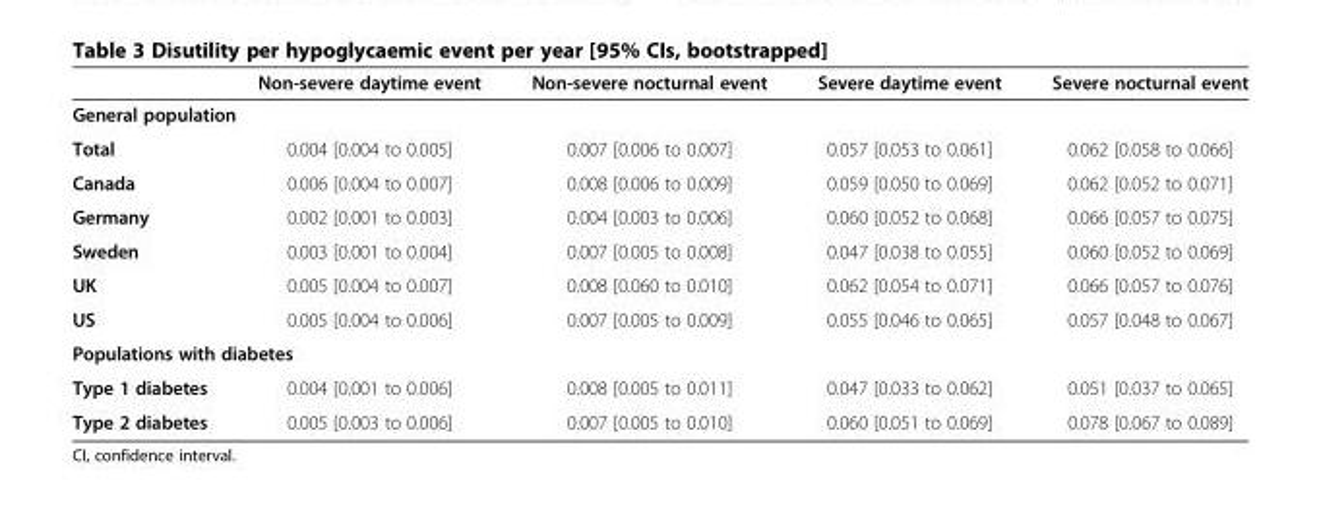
<table><thead><tr><td></td><td>Non-severe daytime event</td><td>Non-severe nocturnal event</td><td>Severe daytime event</td><td>Severe nocturnal event</td></tr></thead><tbody><tr><td colspan="5">General population</td></tr><tr><td>Total</td><td>0.004 [0.004 to 0.005]</td><td>0.007 [0.006 to 0.007]</td><td>0.057 [0.053 to 0.061]</td><td>0.062 [0.058 to 0.066]</td></tr><tr><td>Canada</td><td>0.006 [0.004 to 0.007]</td><td>0.008 [0.006 to 0.009]</td><td>0.059 [0.050 to 0.069]</td><td>0.062 [0.052 to 0.071]</td></tr><tr><td>Germany</td><td>0.002 [0.001 to 0.003]</td><td>0.004 [0.003 to 0.006]</td><td>0.060 [0.052 to 0.068]</td><td>0.066 [0.057 to 0.075]</td></tr><tr><td>Sweden</td><td>0.003 [0.001 to 0.004]</td><td>0.007 [0.005 to 0.008]</td><td>0.047 [0.038 to 0.055]</td><td>0.060 [0.052 to 0.069]</td></tr><tr><td>UK</td><td>0.005 [0.004 to 0.007]</td><td>0.008 [0.060 to 0.010]</td><td>0.062 [0.054 to 0.071]</td><td>0.066 [0.057 to 0.076]</td></tr><tr><td>US</td><td>0.005 [0.004 to 0.006]</td><td>0.007 [0.005 to 0.009]</td><td>0.055 [0.046 to 0.065]</td><td>0.057 [0.048 to 0.067]</td></tr><tr><td colspan="5">Populations with diabetes</td></tr><tr><td>Type 1 diabetes</td><td>0.004 [0.001 to 0.006]</td><td>0.008 [0.005 to 0.011]</td><td>0.047 [0.033 to 0.062]</td><td>0.051 [0.037 to 0.065]</td></tr><tr><td>Type 2 diabetes</td><td>0.005 [0.003 to 0.006]</td><td>0.007 [0.005 to 0.010]</td><td>0.060 [0.051 to 0.069]</td><td>0.078 [0.067 to 0.089]</td></tr></tbody></table>